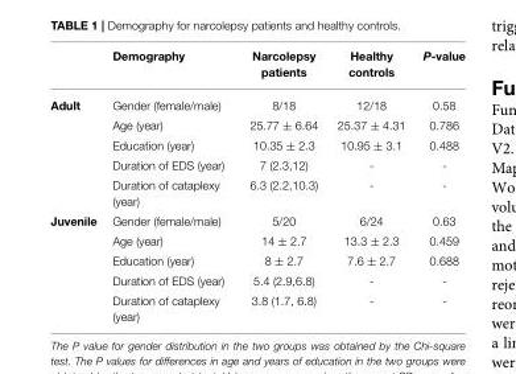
<table><thead><tr><td></td><td>Demography</td><td>Narcolepsy patients</td><td>Healthy controls</td><td>P-value</td></tr></thead><tbody><tr><td rowspan="5">Adult</td><td>Gender (female/male)</td><td>8/18</td><td>12/18</td><td>0.58</td></tr><tr><td>Age (year)</td><td>25.77 ± 6.64</td><td>25.37 ± 4.31</td><td>0.786</td></tr><tr><td>Education (year)</td><td>10.35 ± 2.3</td><td>10.95 ± 3.1</td><td>0.488</td></tr><tr><td>Duration of EDS (year)</td><td>7 (2.3,12)</td><td>-</td><td>-</td></tr><tr><td>Duration of cataplexy (year)</td><td>6.3 (2.2,10.3)</td><td>-</td><td>-</td></tr><tr><td rowspan="5">Juvenile</td><td>Gender (female/male)</td><td>5/20</td><td>6/24</td><td>0.63</td></tr><tr><td>Age (year)</td><td>14 ± 2.7</td><td>13.3 ± 2.3</td><td>0.459</td></tr><tr><td>Education (year)</td><td>8 ± 2.7</td><td>7.6 ± 2.7</td><td>0.688</td></tr><tr><td>Duration of EDS (year)</td><td>5.4 (2.9,6.8)</td><td>-</td><td>-</td></tr><tr><td>Duration of cataplexy (year)</td><td>3.8 (1.7, 6.8)</td><td>-</td><td>-</td></tr></tbody></table>